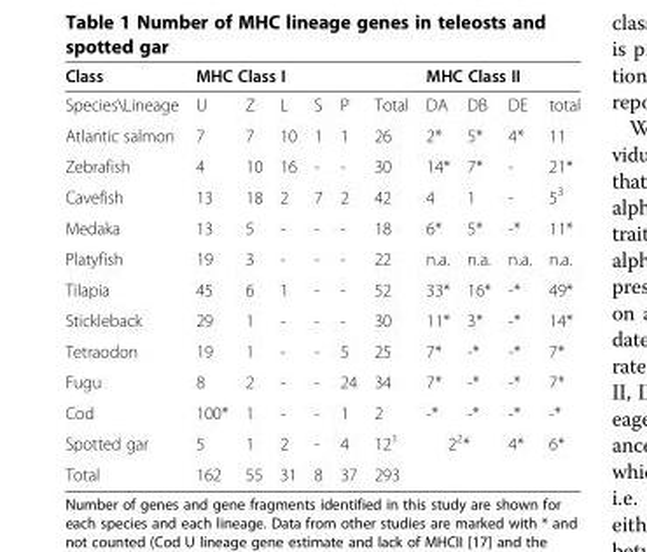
<table><thead><tr><td rowspan="2">Class Species\Lineage</td><td colspan="6">MHC Class I</td><td colspan="4">MHC Class II</td></tr><tr><td>U</td><td>Z</td><td>L</td><td>S</td><td>P</td><td>Total</td><td>DA</td><td>DB</td><td>DE</td><td>total</td></tr></thead><tbody><tr><td>Atlantic salmon</td><td>7</td><td>7</td><td>10</td><td>1</td><td>1</td><td>26</td><td>2*</td><td>5*</td><td>4*</td><td>11</td></tr><tr><td>Zebrafish</td><td>4</td><td>10</td><td>16</td><td>-</td><td>-</td><td>30</td><td>14*</td><td>7*</td><td>-</td><td>21*</td></tr><tr><td>Cavefish</td><td>13</td><td>18</td><td>2</td><td>7</td><td>2</td><td>42</td><td>4</td><td>1</td><td>-</td><td>5<sup>3</sup></td></tr><tr><td>Medaka</td><td>13</td><td>5</td><td>-</td><td>-</td><td>-</td><td>18</td><td>6*</td><td>5*</td><td>-*</td><td>11*</td></tr><tr><td>Platyfish</td><td>19</td><td>3</td><td>-</td><td>-</td><td>-</td><td>22</td><td>n.a.</td><td>n.a.</td><td>n.a.</td><td>n.a.</td></tr><tr><td>Tilapia</td><td>45</td><td>6</td><td>1</td><td>-</td><td>-</td><td>52</td><td>33*</td><td>16*</td><td>-*</td><td>49*</td></tr><tr><td>Stickleback</td><td>29</td><td>1</td><td>-</td><td>-</td><td>-</td><td>30</td><td>11*</td><td>3*</td><td>-*</td><td>14*</td></tr><tr><td>Tetraodon</td><td>19</td><td>1</td><td>-</td><td>-</td><td>5</td><td>25</td><td>7*</td><td>-*</td><td>-*</td><td>7*</td></tr><tr><td>Fugu</td><td>8</td><td>2</td><td>-</td><td>-</td><td>24</td><td>34</td><td>7*</td><td>-*</td><td>-*</td><td>7*</td></tr><tr><td>Cod</td><td>100*</td><td>1</td><td>-</td><td>-</td><td>1</td><td>2</td><td>-*</td><td>-*</td><td>-*</td><td>-*</td></tr><tr><td>Spotted gar</td><td>5</td><td>1</td><td>2</td><td>-</td><td>4</td><td>12<sup>1</sup></td><td colspan="2">2<sup>2</sup>*</td><td>4*</td><td>6*</td></tr><tr><td>Total</td><td>162</td><td>55</td><td>31</td><td>8</td><td>37</td><td>293</td><td></td><td></td><td></td><td></td></tr></tbody></table>